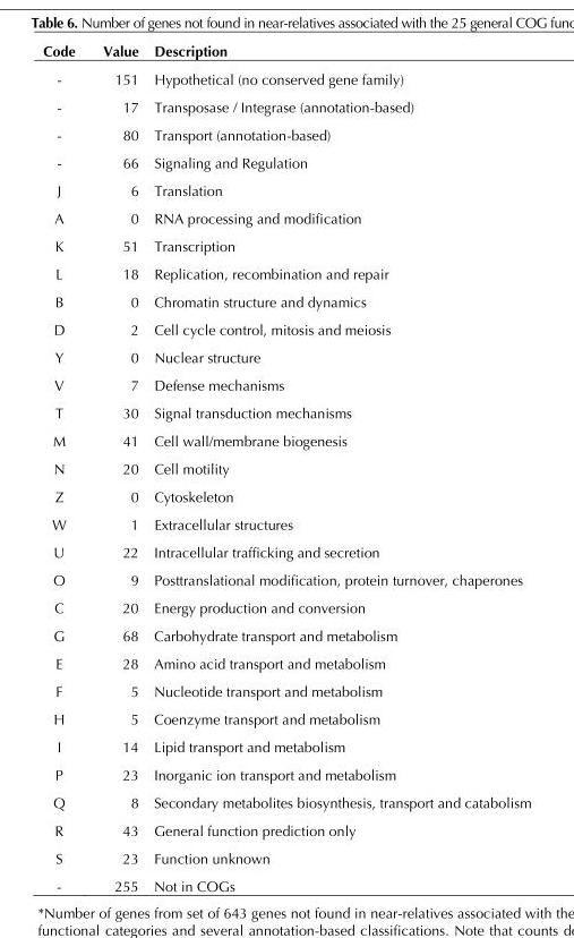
<table><thead><tr><td>Code</td><td>Value</td><td>Description</td></tr></thead><tbody><tr><td>-</td><td>151</td><td>Hypothetical (no conserved gene family)</td></tr><tr><td>-</td><td>17</td><td>Transposase / Integrase (annotation-based)</td></tr><tr><td>-</td><td>80</td><td>Transport (annotation-based)</td></tr><tr><td>-</td><td>66</td><td>Signaling and Regulation</td></tr><tr><td>J</td><td>6</td><td>Translation</td></tr><tr><td>A</td><td>0</td><td>RNA processing and modification</td></tr><tr><td>K</td><td>51</td><td>Transcription</td></tr><tr><td>L</td><td>18</td><td>Replication, recombination and repair</td></tr><tr><td>B</td><td>0</td><td>Chromatin structure and dynamics</td></tr><tr><td>D</td><td>2</td><td>Cell cycle control, mitosis and meiosis</td></tr><tr><td>Y</td><td>0</td><td>Nuclear structure</td></tr><tr><td>V</td><td>7</td><td>Defense mechanisms</td></tr><tr><td>T</td><td>30</td><td>Signal transduction mechanisms</td></tr><tr><td>M</td><td>41</td><td>Cell wall/membrane biogenesis</td></tr><tr><td>N</td><td>20</td><td>Cell motility</td></tr><tr><td>Z</td><td>0</td><td>Cytoskeleton</td></tr><tr><td>W</td><td>1</td><td>Extracellular structures</td></tr><tr><td>U</td><td>22</td><td>Intracellular trafficking and secretion</td></tr><tr><td>O</td><td>9</td><td>Posttranslational modification, protein turnover, chaperones</td></tr><tr><td>C</td><td>20</td><td>Energy production and conversion</td></tr><tr><td>G</td><td>68</td><td>Carbohydrate transport and metabolism</td></tr><tr><td>E</td><td>28</td><td>Amino acid transport and metabolism</td></tr><tr><td>F</td><td>5</td><td>Nucleotide transport and metabolism</td></tr><tr><td>H</td><td>5</td><td>Coenzyme transport and metabolism</td></tr><tr><td>I</td><td>14</td><td>Lipid transport and metabolism</td></tr><tr><td>P</td><td>23</td><td>Inorganic ion transport and metabolism</td></tr><tr><td>Q</td><td>8</td><td>Secondary metabolites biosynthesis, transport and catabolism</td></tr><tr><td>R</td><td>43</td><td>General function prediction only</td></tr><tr><td>S</td><td>23</td><td>Function unknown</td></tr><tr><td>-</td><td>255</td><td>Not in COGs</td></tr></tbody></table>